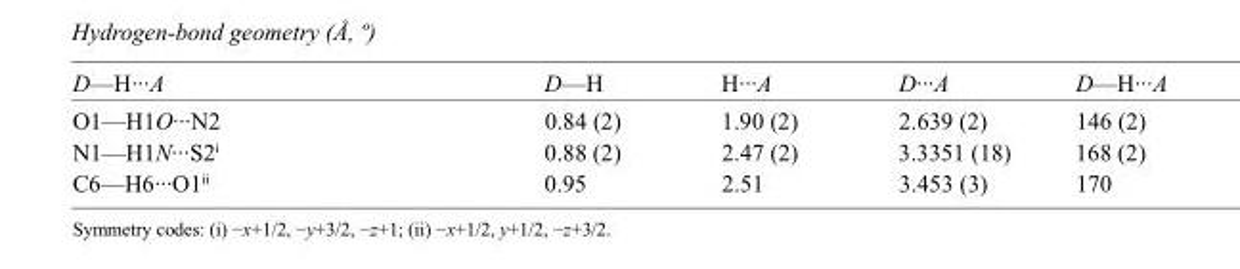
<table><tbody><tr><td>D—H···A</td><td>D—H</td><td>H···A</td><td>D···A</td><td>D—H···A</td></tr><tr><td>O1—H1O···N2</td><td>0.84 (2)</td><td>1.90 (2)</td><td>2.639 (2)</td><td>146 (2)</td></tr><tr><td>N1—H1N···S2<sup>i</sup></td><td>0.88 (2)</td><td>2.47 (2)</td><td>3.3351 (18)</td><td>168 (2)</td></tr><tr><td>C6—H6···O1<sup>ii</sup></td><td>0.95</td><td>2.51</td><td>3.453 (3)</td><td>170</td></tr></tbody></table>